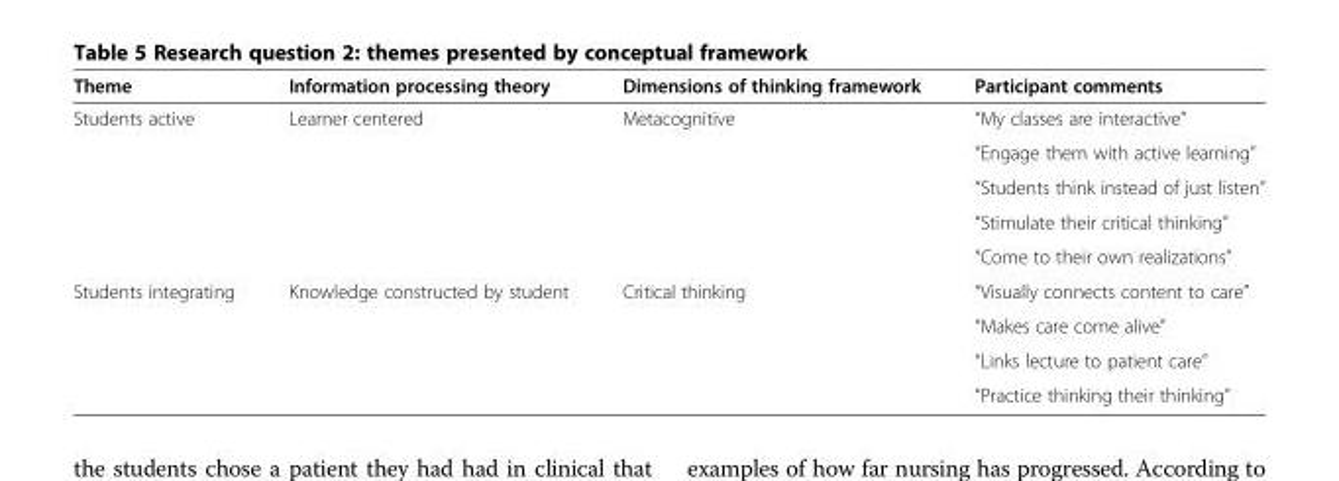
<table><thead><tr><td>Theme</td><td>Information processing theory</td><td>Dimensions of thinking framework</td><td>Participant comments</td></tr></thead><tbody><tr><td rowspan="5">Students active</td><td rowspan="5">Learner centered</td><td rowspan="5">Metacognitive</td><td>“My classes are interactive”</td></tr><tr><td>“Engage them with active learning”</td></tr><tr><td>“Students think instead of just listen”</td></tr><tr><td>“Stimulate their critical thinking”</td></tr><tr><td>“Come to their own realizations”</td></tr><tr><td rowspan="4">Students integrating</td><td rowspan="4">Knowledge constructed by student</td><td rowspan="4">Critical thinking</td><td>“Visually connects content to care”</td></tr><tr><td>“Makes care come alive”</td></tr><tr><td>“Links lecture to patient care”</td></tr><tr><td>“Practice thinking their thinking”</td></tr></tbody></table>